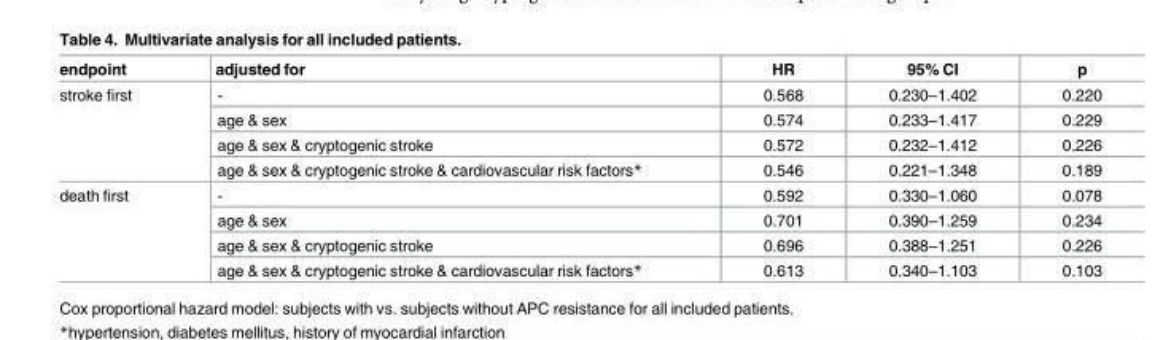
<table><thead><tr><td>endpoint</td><td>adjusted for</td><td>HR</td><td>95% CI</td><td>p</td></tr></thead><tbody><tr><td rowspan="4">stroke first</td><td>-</td><td>0.568</td><td>0.230–1.402</td><td>0.220</td></tr><tr><td>age &amp; sex</td><td>0.574</td><td>0.233–1.417</td><td>0.229</td></tr><tr><td>age &amp; sex &amp; cryptogenic stroke</td><td>0.572</td><td>0.232–1.412</td><td>0.226</td></tr><tr><td>age &amp; sex &amp; cryptogenic stroke &amp; cardiovascular risk factors*</td><td>0.546</td><td>0.221–1.348</td><td>0.189</td></tr><tr><td rowspan="4">death first</td><td>-</td><td>0.592</td><td>0.330–1.060</td><td>0.078</td></tr><tr><td>age &amp; sex</td><td>0.701</td><td>0.390–1.259</td><td>0.234</td></tr><tr><td>age &amp; sex &amp; cryptogenic stroke</td><td>0.696</td><td>0.388–1.251</td><td>0.226</td></tr><tr><td>age &amp; sex &amp; cryptogenic stroke &amp; cardiovascular risk factors*</td><td>0.613</td><td>0.340–1.103</td><td>0.103</td></tr></tbody></table>